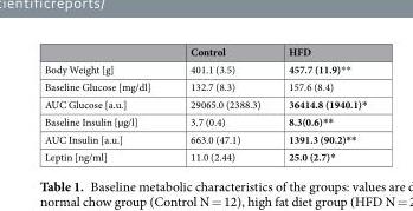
<table><thead><tr><td></td><td>Control</td><td>HFD</td></tr></thead><tbody><tr><td>Body Weight [g]</td><td>401.1 (3.5)</td><td>457.7 (11.9)**</td></tr><tr><td>Baseline Glucose [mg/dl]</td><td>132.7 (8.3)</td><td>157.6 (8.4)</td></tr><tr><td>AUC Glucose [a.u.]</td><td>29065.0 (2388.3)</td><td>36414.8 (1940.1)*</td></tr><tr><td>Baseline Insulin [µg/l]</td><td>3.7 (0.4)</td><td>8.3(0.6)**</td></tr><tr><td>AUC Insulin [a.u.]</td><td>663.0 (47.1)</td><td>1391.3 (90.2)**</td></tr><tr><td>Leptin [ng/ml]</td><td>11.0 (2.44)</td><td>25.0 (2.7)*</td></tr></tbody></table>